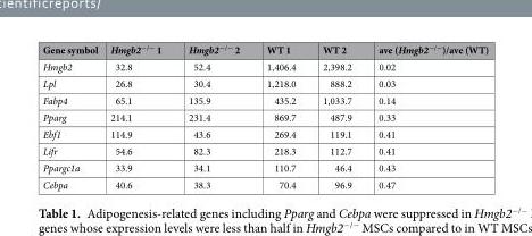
<table><thead><tr><td>Gene symbol</td><td>Hmgb2<sup>−/−</sup> 1</td><td>Hmgb2<sup>−/−</sup> 2</td><td>WT 1</td><td>WT 2</td><td>ave (Hmgb2<sup>−/−</sup>)/ave (WT)</td></tr></thead><tbody><tr><td>Hmgb2</td><td>32.8</td><td>52.4</td><td>1,406.4</td><td>2,398.2</td><td>0.02</td></tr><tr><td>Lpl</td><td>26.8</td><td>30.4</td><td>1,218.0</td><td>888.2</td><td>0.03</td></tr><tr><td>Fabp4</td><td>65.1</td><td>135.9</td><td>435.2</td><td>1,033.7</td><td>0.14</td></tr><tr><td>Pparg</td><td>214.1</td><td>231.4</td><td>869.7</td><td>487.9</td><td>0.33</td></tr><tr><td>Ebf1</td><td>114.9</td><td>43.6</td><td>269.4</td><td>119.1</td><td>0.41</td></tr><tr><td>Lifr</td><td>54.6</td><td>82.3</td><td>218.3</td><td>112.7</td><td>0.41</td></tr><tr><td>Ppargc1a</td><td>33.9</td><td>34.1</td><td>110.7</td><td>46.4</td><td>0.43</td></tr><tr><td>Cebpa</td><td>40.6</td><td>38.3</td><td>70.4</td><td>96.9</td><td>0.47</td></tr></tbody></table>